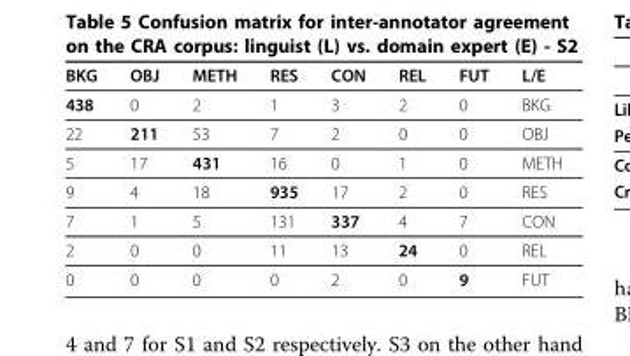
<table><thead><tr><td>BKG</td><td>OBJ</td><td>METH</td><td>RES</td><td>CON</td><td>REL</td><td>FUT</td><td>L/E</td></tr></thead><tbody><tr><td>438</td><td>0</td><td>2</td><td>1</td><td>3</td><td>2</td><td>0</td><td>BKG</td></tr><tr><td>22</td><td>211</td><td>53</td><td>7</td><td>2</td><td>0</td><td>0</td><td>OBJ</td></tr><tr><td>5</td><td>17</td><td>431</td><td>16</td><td>0</td><td>1</td><td>0</td><td>METH</td></tr><tr><td>9</td><td>4</td><td>18</td><td>935</td><td>17</td><td>2</td><td>0</td><td>RES</td></tr><tr><td>7</td><td>1</td><td>5</td><td>131</td><td>337</td><td>4</td><td>7</td><td>CON</td></tr><tr><td>2</td><td>0</td><td>0</td><td>11</td><td>13</td><td>24</td><td>0</td><td>REL</td></tr><tr><td>0</td><td>0</td><td>0</td><td>0</td><td>2</td><td>0</td><td>9</td><td>FUT</td></tr></tbody></table>